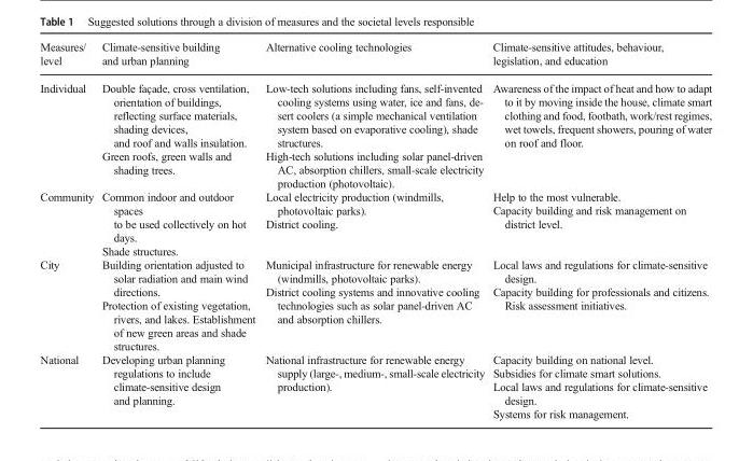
<table><thead><tr><td>Measures/ level</td><td>Climate-sensitive building and urban planning</td><td>Alternative cooling technologies</td><td>Climate-sensitive attitudes, behaviour, legislation, and education</td></tr></thead><tbody><tr><td>Individual</td><td>Double façade, cross ventilation, orientation of buildings, reflecting surface materials, shading devices, and roof and walls insulation. Green roofs, green walls and shading trees.</td><td>Low-tech solutions including fans, self-invented cooling systems using water, ice and fans, de- sert coolers (a simple mechanical ventilation system based on evaporative cooling), shade structures. High-tech solutions including solar panel-driven AC, absorption chillers, small-scale electricity production (photovoltaic).</td><td>Awareness of the impact of heat and how to adapt to it by moving inside the house, climate smart clothing and food, footbath, work/rest regimes, wet towels, frequent showers, pouring of water on roof and floor.</td></tr><tr><td>Community</td><td>Common indoor and outdoor spaces to be used collectively on hot days. Shade structures.</td><td>Local electricity production (windmills, photovoltaic parks). District cooling.</td><td>Help to the most vulnerable. Capacity building and risk management on district level.</td></tr><tr><td>City</td><td>Building orientation adjusted to solar radiation and main wind directions. Protection of existing vegetation, rivers, and lakes. Establishment of new green areas and shade structures.</td><td>Municipal infrastructure for renewable energy (windmills, photovoltaic parks). District cooling systems and innovative cooling technologies such as solar panel-driven AC and absorption chillers.</td><td>Local laws and regulations for climate-sensitive design. Capacity building for professionals and citizens. Risk assessment initiatives.</td></tr><tr><td>National</td><td>Developing urban planning regulations to include climate-sensitive design and planning.</td><td>National infrastructure for renewable energy supply (large-, medium-, small-scale electricity production).</td><td>Capacity building on national level. Subsidies for climate smart solutions. Local laws and regulations for climate-sensitive design. Systems for risk management.</td></tr></tbody></table>